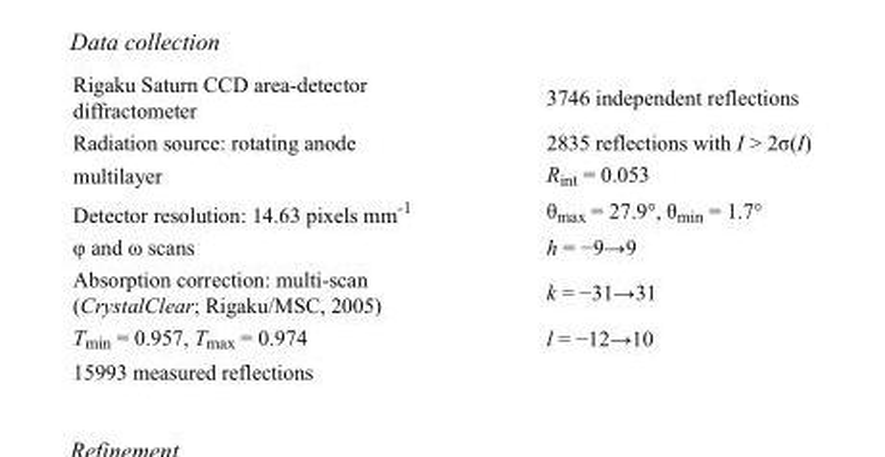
<table><tbody><tr><td>Rigaku Saturn CCD area-detector diffractometer</td><td>3746 independent reflections</td></tr><tr><td>Radiation source: rotating anode</td><td>2835 reflections with I &gt; 2σ(I)</td></tr><tr><td>multilayer</td><td>R<sub>int</sub> = 0.053</td></tr><tr><td>Detector resolution: 14.63 pixels mm<sup>-1</sup></td><td>θ<sub>max</sub> = 27.9°, θ<sub>min</sub> = 1.7°</td></tr><tr><td>φ and ω scans</td><td>h = −9→9</td></tr><tr><td>Absorption correction: multi-scan (CrystalClear; Rigaku/MSC, 2005)</td><td>k = −31→31</td></tr><tr><td>T<sub>min</sub> = 0.957, T<sub>max</sub> = 0.974</td><td>l = −12→10</td></tr><tr><td>15993 measured reflections</td><td></td></tr></tbody></table>